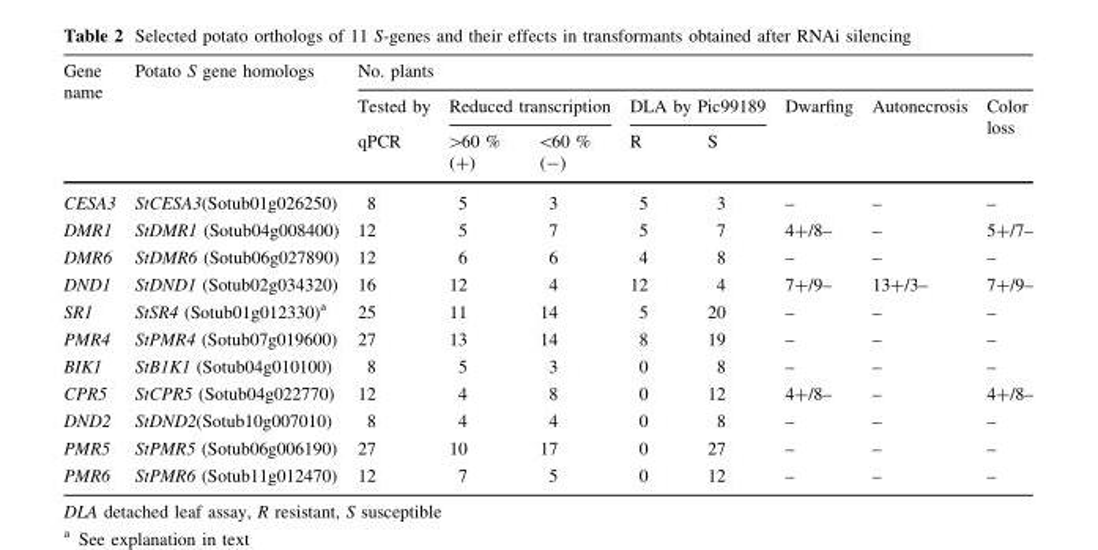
<table><thead><tr><td rowspan="3">Gene name</td><td rowspan="3">Potato S gene homologs</td><td colspan="8">No. plants</td></tr><tr><td rowspan="2">Tested by qPCR</td><td colspan="2">Reduced transcription</td><td colspan="2">DLA by Pic99189</td><td rowspan="2">Dwarfing</td><td rowspan="2">Autonecrosis</td><td rowspan="2">Color loss</td></tr><tr><td>&gt;60 % (+)</td><td>&lt;60 % (-)</td><td>R</td><td>S</td></tr></thead><tbody><tr><td>CESA3</td><td>StCESA3(Sotub01g026250)</td><td>8</td><td>5</td><td>3</td><td>5</td><td>3</td><td>–</td><td>–</td><td>–</td></tr><tr><td>DMR1</td><td>StDMR1 (Sotub04g008400)</td><td>12</td><td>5</td><td>7</td><td>5</td><td>7</td><td>4+/8–</td><td>–</td><td>5+/7–</td></tr><tr><td>DMR6</td><td>StDMR6 (Sotub06g027890)</td><td>12</td><td>6</td><td>6</td><td>4</td><td>8</td><td>–</td><td>–</td><td>–</td></tr><tr><td>DND1</td><td>StDND1 (Sotub02g034320)</td><td>16</td><td>12</td><td>4</td><td>12</td><td>4</td><td>7+/9–</td><td>13+/3–</td><td>7+/9–</td></tr><tr><td>SR1</td><td>StSR4 (Sotub01g012330)<sup>a</sup></td><td>25</td><td>11</td><td>14</td><td>5</td><td>20</td><td>–</td><td>–</td><td>–</td></tr><tr><td>PMR4</td><td>StPMR4 (Sotub07g019600)</td><td>27</td><td>13</td><td>14</td><td>8</td><td>19</td><td>–</td><td>–</td><td>–</td></tr><tr><td>BIK1</td><td>StB1K1 (Sotub04g010100)</td><td>8</td><td>5</td><td>3</td><td>0</td><td>8</td><td>–</td><td>–</td><td>–</td></tr><tr><td>CPR5</td><td>StCPR5 (Sotub04g022770)</td><td>12</td><td>4</td><td>8</td><td>0</td><td>12</td><td>4+/8–</td><td>–</td><td>4+/8–</td></tr><tr><td>DND2</td><td>StDND2(Sotub10g007010)</td><td>8</td><td>4</td><td>4</td><td>0</td><td>8</td><td>–</td><td>–</td><td>–</td></tr><tr><td>PMR5</td><td>StPMR5 (Sotub06g006190)</td><td>27</td><td>10</td><td>17</td><td>0</td><td>27</td><td>–</td><td>–</td><td>–</td></tr><tr><td>PMR6</td><td>StPMR6 (Sotub11g012470)</td><td>12</td><td>7</td><td>5</td><td>0</td><td>12</td><td>–</td><td>–</td><td>–</td></tr></tbody></table>